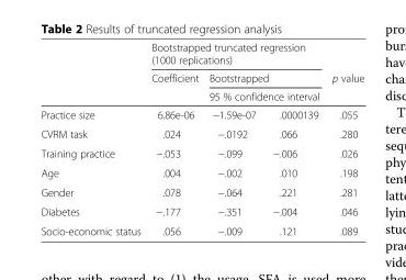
<table><thead><tr><td rowspan="4">Practice size</td><td colspan="3">Bootstrapped truncated regression (1000 replications)</td><td rowspan="4">p value .055</td></tr><tr><td rowspan="3">Coefficient 6.86e-06</td><td rowspan="2" colspan="2">Bootstrapped 95 % confidence interval</td></tr><tr></tr><tr><td>−1.59e-07</td><td>.0000139</td></tr></thead><tbody><tr><td>CVRM task</td><td>.024</td><td>−.0192</td><td>.066</td><td>.280</td></tr><tr><td>Training practice</td><td>−.053</td><td>−.099</td><td>−.006</td><td>.026</td></tr><tr><td>Age</td><td>.004</td><td>−.002</td><td>.010</td><td>.198</td></tr><tr><td>Gender</td><td>.078</td><td>−.064</td><td>.221</td><td>.281</td></tr><tr><td>Diabetes</td><td>−.177</td><td>−.351</td><td>−.004</td><td>.046</td></tr><tr><td>Socio-economic status</td><td>.056</td><td>−.009</td><td>.121</td><td>.089</td></tr></tbody></table>